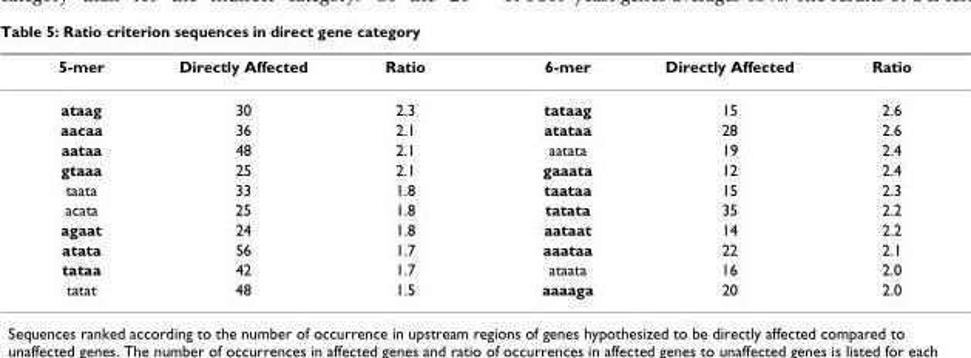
<table><thead><tr><td>5-mer</td><td>Directly Affected</td><td>Ratio</td><td>6-mer</td><td>Directly Affected</td><td>Ratio</td></tr></thead><tbody><tr><td>ataag</td><td>30</td><td>2.3</td><td>tataag</td><td>15</td><td>2.6</td></tr><tr><td>aacaa</td><td>36</td><td>2.1</td><td>atataa</td><td>28</td><td>2.6</td></tr><tr><td>aataa</td><td>48</td><td>2.1</td><td>aatata</td><td>19</td><td>2.4</td></tr><tr><td>gtaaa</td><td>25</td><td>2.1</td><td>gaaata</td><td>12</td><td>2.4</td></tr><tr><td>taata</td><td>33</td><td>1.8</td><td>taataa</td><td>15</td><td>2.3</td></tr><tr><td>acata</td><td>25</td><td>1.8</td><td>tatata</td><td>35</td><td>2.2</td></tr><tr><td>agaat</td><td>24</td><td>1.8</td><td>aataat</td><td>14</td><td>2.2</td></tr><tr><td>atata</td><td>56</td><td>1.7</td><td>aaataa</td><td>22</td><td>2.1</td></tr><tr><td>tataa</td><td>42</td><td>1.7</td><td>ataata</td><td>16</td><td>2.0</td></tr><tr><td>tatat</td><td>48</td><td>1.5</td><td>aaaaga</td><td>20</td><td>2.0</td></tr></tbody></table>